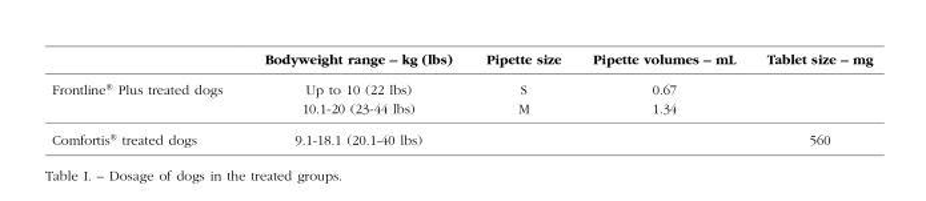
<table><thead><tr><td></td><td>Bodyweight range – kg (lbs)</td><td>Pipette size</td><td>Pipette volumes – mL</td><td>Tablet size – mg</td></tr></thead><tbody><tr><td rowspan="2">Frontline<sup>®</sup> Plus treated dogs</td><td>Up to 10 (22 lbs)</td><td>S</td><td>0.67</td><td></td></tr><tr><td>10.1-20 (23-44 lbs)</td><td>M</td><td>1.34</td><td></td></tr><tr><td>Comfortis<sup>®</sup> treated dogs</td><td>9.1-18.1 (20.1-40 lbs)</td><td></td><td></td><td>560</td></tr></tbody></table>